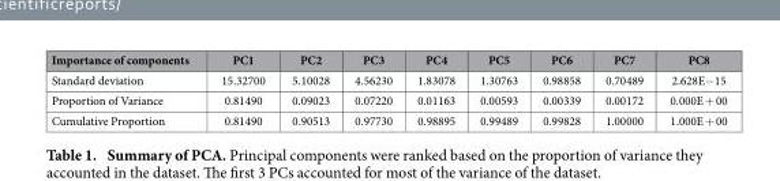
<table><thead><tr><td>Importance of components</td><td>PC1</td><td>PC2</td><td>PC3</td><td>PC4</td><td>PC5</td><td>PC6</td><td>PC7</td><td>PC8</td></tr></thead><tbody><tr><td>Standard deviation</td><td>15.32700</td><td>5.10028</td><td>4.56230</td><td>1.83078</td><td>1.30763</td><td>0.98858</td><td>0.70489</td><td>2.628E− 15</td></tr><tr><td>Proportion of Variance</td><td>0.81490</td><td>0.09023</td><td>0.07220</td><td>0.01163</td><td>0.00593</td><td>0.00339</td><td>0.00172</td><td>0.000E + 00</td></tr><tr><td>Cumulative Proportion</td><td>0.81490</td><td>0.90513</td><td>0.97730</td><td>0.98895</td><td>0.99489</td><td>0.99828</td><td>1.00000</td><td>1.000E + 00</td></tr></tbody></table>